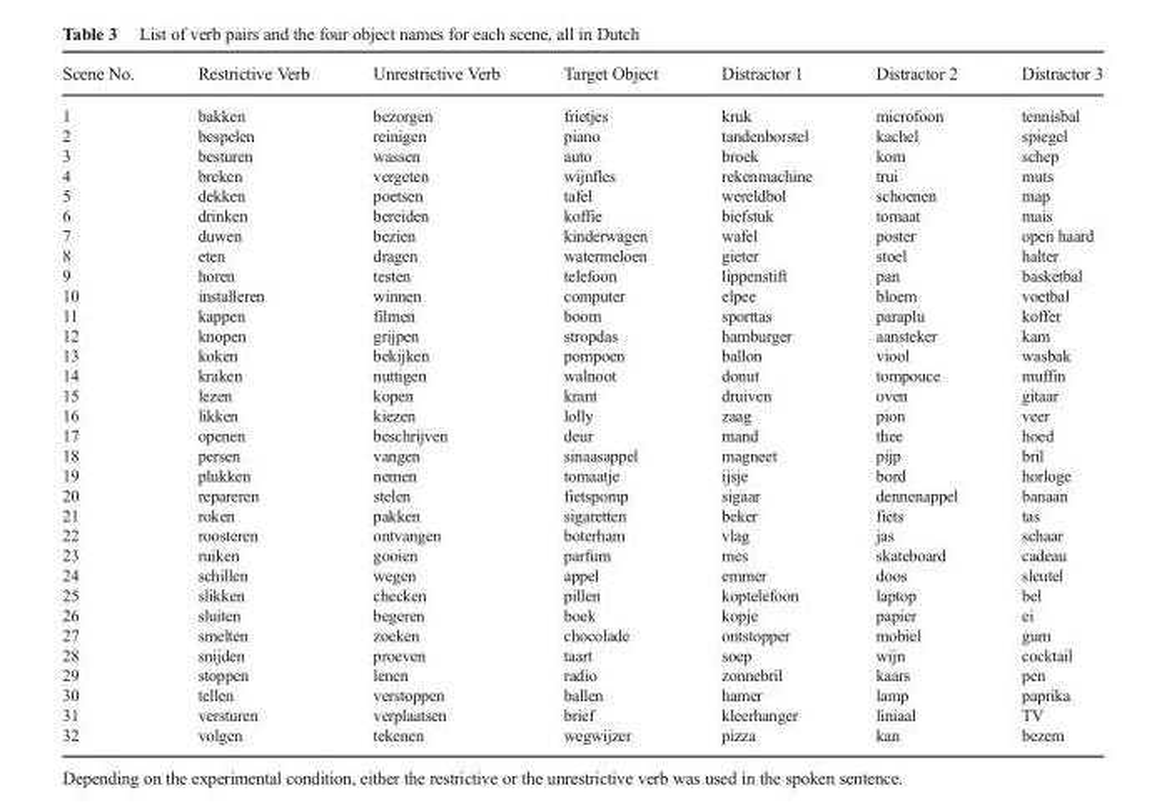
<table><thead><tr><td>Scene No.</td><td>Restrictive Verb</td><td>Unrestrictive Verb</td><td>Target Object</td><td>Distractor 1</td><td>Distractor 2</td><td>Distractor 3</td></tr></thead><tbody><tr><td>1</td><td>bakken</td><td>bezorgen</td><td>frietjes</td><td>kruk</td><td>microfoon</td><td>tennisbal</td></tr><tr><td>2</td><td>bespelen</td><td>reinigen</td><td>piano</td><td>tandenborstel</td><td>kachel</td><td>spiegel</td></tr><tr><td>3</td><td>besturen</td><td>wassen</td><td>auto</td><td>broek</td><td>kom</td><td>schep</td></tr><tr><td>4</td><td>breken</td><td>vergeten</td><td>wijnfles</td><td>rekenmachine</td><td>trui</td><td>muts</td></tr><tr><td>5</td><td>dekken</td><td>poetsen</td><td>tafel</td><td>wereldbol</td><td>schoenen</td><td>map</td></tr><tr><td>6</td><td>drinken</td><td>bereiden</td><td>koffie</td><td>biefstuk</td><td>tomaat</td><td>mais</td></tr><tr><td>7</td><td>duwen</td><td>bezien</td><td>kinderwagen</td><td>wafel</td><td>poster</td><td>open haard</td></tr><tr><td>8</td><td>eten</td><td>dragen</td><td>watermeloen</td><td>gieter</td><td>stoel</td><td>halter</td></tr><tr><td>9</td><td>horen</td><td>testen</td><td>telefoon</td><td>lippenstift</td><td>pan</td><td>basketbal</td></tr><tr><td>10</td><td>installeren</td><td>winnen</td><td>computer</td><td>elpee</td><td>bloem</td><td>voetbal</td></tr><tr><td>11</td><td>kappen</td><td>filmen</td><td>boom</td><td>sporttas</td><td>paraplu</td><td>koffer</td></tr><tr><td>12</td><td>knopen</td><td>grijpen</td><td>stropdas</td><td>hamburger</td><td>aansteker</td><td>kam</td></tr><tr><td>13</td><td>koken</td><td>bekijken</td><td>pompoen</td><td>ballon</td><td>viool</td><td>wasbak</td></tr><tr><td>14</td><td>kraken</td><td>nuttigen</td><td>walnoot</td><td>donut</td><td>tompouce</td><td>muffin</td></tr><tr><td>15</td><td>lezen</td><td>kopen</td><td>krant</td><td>druiven</td><td>oven</td><td>gitaar</td></tr><tr><td>16</td><td>likken</td><td>kiezen</td><td>lolly</td><td>zaag</td><td>pion</td><td>veer</td></tr><tr><td>17</td><td>openen</td><td>beschrijven</td><td>deur</td><td>mand</td><td>thee</td><td>hoed</td></tr><tr><td>18</td><td>persen</td><td>vangen</td><td>sinaasappel</td><td>magneet</td><td>pijp</td><td>bril</td></tr><tr><td>19</td><td>plukken</td><td>nemen</td><td>tomaatje</td><td>ijsje</td><td>bord</td><td>horloge</td></tr><tr><td>20</td><td>repareren</td><td>stelen</td><td>fietspomp</td><td>sigaar</td><td>dennenappel</td><td>banaan</td></tr><tr><td>21</td><td>roken</td><td>pakken</td><td>sigaretten</td><td>beker</td><td>fiets</td><td>tas</td></tr><tr><td>22</td><td>roosteren</td><td>ontvangen</td><td>boterham</td><td>vlag</td><td>jas</td><td>schaar</td></tr><tr><td>23</td><td>ruiken</td><td>gooien</td><td>parfum</td><td>mes</td><td>skateboard</td><td>cadeau</td></tr><tr><td>24</td><td>schillen</td><td>wegen</td><td>appel</td><td>emmer</td><td>doos</td><td>sleutel</td></tr><tr><td>25</td><td>slikken</td><td>checken</td><td>pillen</td><td>koptelefoon</td><td>laptop</td><td>bel</td></tr><tr><td>26</td><td>sluiten</td><td>begeren</td><td>boek</td><td>kopje</td><td>papier</td><td>ei</td></tr><tr><td>27</td><td>smelten</td><td>zoeken</td><td>chocolade</td><td>ontstopper</td><td>mobiel</td><td>gum</td></tr><tr><td>28</td><td>snijden</td><td>proeven</td><td>taart</td><td>soep</td><td>wijn</td><td>cocktail</td></tr><tr><td>29</td><td>stoppen</td><td>lenen</td><td>radio</td><td>zonnebril</td><td>kaars</td><td>pen</td></tr><tr><td>30</td><td>tellen</td><td>verstoppen</td><td>ballen</td><td>hamer</td><td>lamp</td><td>paprika</td></tr><tr><td>31</td><td>versturen</td><td>verplaatsen</td><td>brief</td><td>kleerhanger</td><td>liniaal</td><td>TV</td></tr><tr><td>32</td><td>volgen</td><td>tekenen</td><td>wegwijzer</td><td>pizza</td><td>kan</td><td>bezem</td></tr></tbody></table>